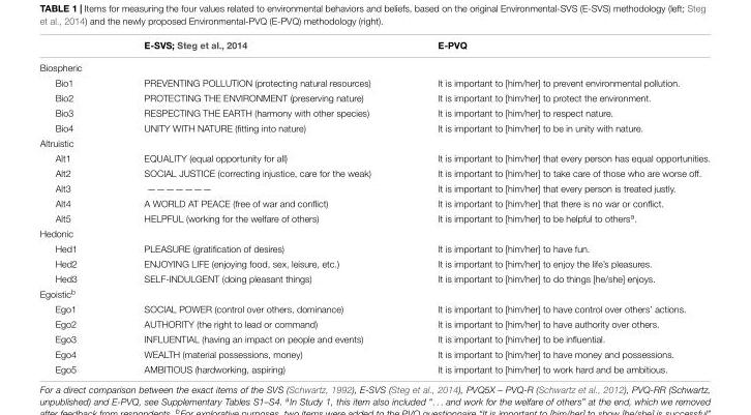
<table><thead><tr><td></td><td>E-SVS; Steg et al., 2014</td><td>E-PVQ</td></tr></thead><tbody><tr><td colspan="3">Biospheric</td></tr><tr><td>Bio1</td><td>PREVENTING POLLUTION (protecting natural resources)</td><td>It is important to [him/her] to prevent environmental pollution.</td></tr><tr><td>Bio2</td><td>PROTECTING THE ENVIRONMENT (preserving nature)</td><td>It is important to [him/her] to protect the environment.</td></tr><tr><td>Bio3</td><td>RESPECTING THE EARTH (harmony with other species)</td><td>It is important to [him/her] to respect nature.</td></tr><tr><td>Bio4</td><td>UNITY WITH NATURE (fitting into nature)</td><td>It is important to [him/her] to be in unity with nature.</td></tr><tr><td colspan="3">Altruistic</td></tr><tr><td>Alt1</td><td>EQUALITY (equal opportunity for all)</td><td>It is important to [him/her] that every person has equal opportunities.</td></tr><tr><td>Alt2</td><td>SOCIAL JUSTICE (correcting injustice, care for the weak)</td><td>It is important to [him/her] to take care of those who are worse off.</td></tr><tr><td>Alt3</td><td>———————</td><td>It is important to [him/her] that every person is treated justly.</td></tr><tr><td>Alt4</td><td>A WORLD AT PEACE (free of war and conflict)</td><td>It is important to [him/her] that there is no war or conflict.</td></tr><tr><td>Alt5</td><td>HELPFUL (working for the welfare of others)</td><td>It is important to [him/her] to be helpful to others<sup>a</sup>.</td></tr><tr><td colspan="3">Hedonic</td></tr><tr><td>Hed1</td><td>PLEASURE (gratification of desires)</td><td>It is important to [him/her] to have fun.</td></tr><tr><td>Hed2</td><td>ENJOYING LIFE (enjoying food, sex, leisure, etc.)</td><td>It is important to [him/her] to enjoy the life’s pleasures.</td></tr><tr><td>Hed3</td><td>SELF-INDULGENT (doing pleasant things)</td><td>It is important to [him/her] to do things [he/she] enjoys.</td></tr><tr><td colspan="3">Egoistic<sup>b</sup></td></tr><tr><td>Ego1</td><td>SOCIAL POWER (control over others, dominance)</td><td>It is important to [him/her] to have control over others’ actions.</td></tr><tr><td>Ego2</td><td>AUTHORITY (the right to lead or command)</td><td>It is important to [him/her] to have authority over others.</td></tr><tr><td>Ego3</td><td>INFLUENTIAL (having an impact on people and events)</td><td>It is important to [him/her] to be influential.</td></tr><tr><td>Ego4</td><td>WEALTH (material possessions, money)</td><td>It is important to [him/her] to have money and possessions.</td></tr><tr><td>Ego5</td><td>AMBITIOUS (hardworking, aspiring)</td><td>It is important to [him/her] to work hard and be ambitious.</td></tr></tbody></table>